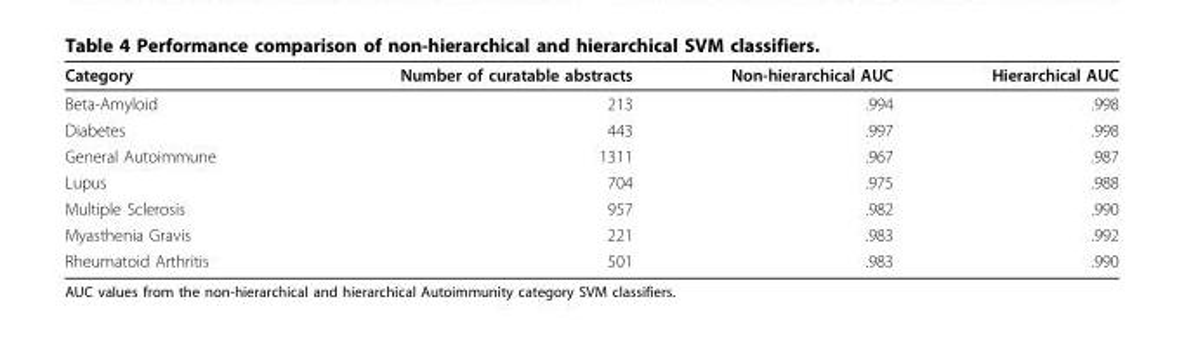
<table><thead><tr><td>Category</td><td>Number of curatable abstracts</td><td>Non-hierarchical AUC</td><td>Hierarchical AUC</td></tr></thead><tbody><tr><td>Beta-Amyloid</td><td>213</td><td>.994</td><td>.998</td></tr><tr><td>Diabetes</td><td>443</td><td>.997</td><td>.998</td></tr><tr><td>General Autoimmune</td><td>1311</td><td>.967</td><td>.987</td></tr><tr><td>Lupus</td><td>704</td><td>.975</td><td>.988</td></tr><tr><td>Multiple Sclerosis</td><td>957</td><td>.982</td><td>.990</td></tr><tr><td>Myasthenia Gravis</td><td>221</td><td>.983</td><td>.992</td></tr><tr><td>Rheumatoid Arthritis</td><td>501</td><td>.983</td><td>.990</td></tr></tbody></table>